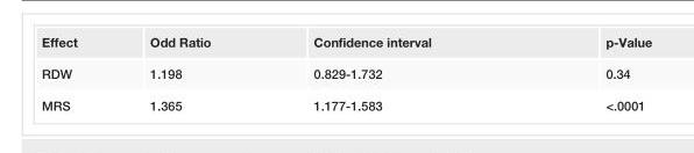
<table><tbody><tr><td>Effect</td><td>Odd Ratio</td><td>Confidence interval</td><td>p-Value</td></tr><tr><td>RDW</td><td>1.198</td><td>0.829-1.732</td><td>0.34</td></tr><tr><td>MRS</td><td>1.365</td><td>1.177-1.583</td><td>&lt;.0001</td></tr></tbody></table>